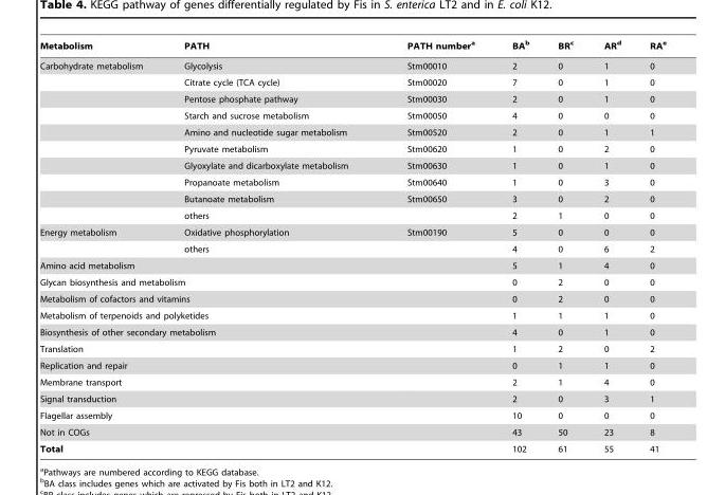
<table><thead><tr><td>Metabolism</td><td>PATH</td><td>PATH number<sup>a</sup></td><td>BA<sup>b</sup></td><td>BR<sup>c</sup></td><td>AR<sup>d</sup></td><td>RA<sup>e</sup></td></tr></thead><tbody><tr><td rowspan="10">Carbohydrate metabolism</td><td>Glycolysis</td><td>Stm00010</td><td>2</td><td>0</td><td>1</td><td>0</td></tr><tr><td>Citrate cycle (TCA cycle)</td><td>Stm00020</td><td>7</td><td>0</td><td>1</td><td>0</td></tr><tr><td>Pentose phosphate pathway</td><td>Stm00030</td><td>2</td><td>0</td><td>1</td><td>0</td></tr><tr><td>Starch and sucrose metabolism</td><td>Stm00050</td><td>4</td><td>0</td><td>0</td><td>0</td></tr><tr><td>Amino and nucleotide sugar metabolism</td><td>Stm00520</td><td>2</td><td>0</td><td>1</td><td>1</td></tr><tr><td>Pyruvate metabolism</td><td>Stm00620</td><td>1</td><td>0</td><td>2</td><td>0</td></tr><tr><td>Glyoxylate and dicarboxylate metabolism</td><td>Stm00630</td><td>1</td><td>0</td><td>1</td><td>0</td></tr><tr><td>Propanoate metabolism</td><td>Stm00640</td><td>1</td><td>0</td><td>3</td><td>0</td></tr><tr><td>Butanoate metabolism</td><td>Stm00650</td><td>3</td><td>0</td><td>2</td><td>0</td></tr><tr><td>others</td><td></td><td>2</td><td>1</td><td>0</td><td>0</td></tr><tr><td rowspan="2">Energy metabolism</td><td>Oxidative phosphorylation</td><td>Stm00190</td><td>5</td><td>0</td><td>0</td><td>0</td></tr><tr><td>others</td><td></td><td>4</td><td>0</td><td>6</td><td>2</td></tr><tr><td colspan="2">Amino acid metabolism</td><td></td><td>5</td><td>1</td><td>4</td><td>0</td></tr><tr><td colspan="2">Glycan biosynthesis and metabolism</td><td></td><td>0</td><td>2</td><td>0</td><td>0</td></tr><tr><td colspan="2">Metabolism of cofactors and vitamins</td><td></td><td>0</td><td>2</td><td>0</td><td>0</td></tr><tr><td colspan="2">Metabolism of terpenoids and polyketides</td><td></td><td>1</td><td>1</td><td>1</td><td>0</td></tr><tr><td colspan="2">Biosynthesis of other secondary metabolism</td><td></td><td>4</td><td>0</td><td>1</td><td>0</td></tr><tr><td colspan="2">Translation</td><td></td><td>1</td><td>2</td><td>0</td><td>2</td></tr><tr><td colspan="2">Replication and repair</td><td></td><td>0</td><td>1</td><td>1</td><td>0</td></tr><tr><td colspan="2">Membrane transport</td><td></td><td>2</td><td>1</td><td>4</td><td>0</td></tr><tr><td colspan="2">Signal transduction</td><td></td><td>2</td><td>0</td><td>3</td><td>1</td></tr><tr><td colspan="2">Flagellar assembly</td><td></td><td>10</td><td>0</td><td>0</td><td>0</td></tr><tr><td colspan="2">Not in COGs</td><td></td><td>43</td><td>50</td><td>23</td><td>8</td></tr><tr><td colspan="2">Total</td><td></td><td>102</td><td>61</td><td>55</td><td>41</td></tr></tbody></table>